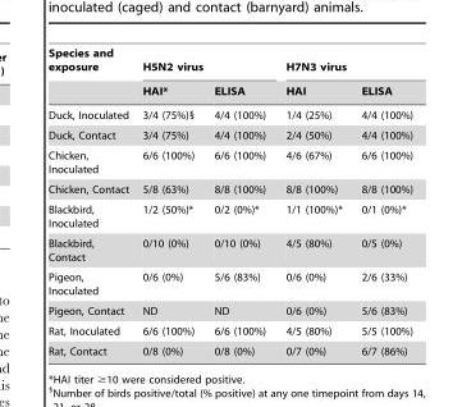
<table><thead><tr><td rowspan="2">Species and exposure</td><td colspan="2">H5N2 virus</td><td colspan="2">H7N3 virus</td></tr><tr><td>HAI*</td><td>ELISA</td><td>HAI</td><td>ELISA</td></tr></thead><tbody><tr><td>Duck, Inoculated</td><td>3/4 (75%)§</td><td>4/4 (100%)</td><td>1/4 (25%)</td><td>4/4 (100%)</td></tr><tr><td>Duck, Contact</td><td>3/4 (75%)</td><td>4/4 (100%)</td><td>2/4 (50%)</td><td>4/4 (100%)</td></tr><tr><td>Chicken, Inoculated</td><td>6/6 (100%)</td><td>6/6 (100%)</td><td>4/6 (67%)</td><td>6/6 (100%)</td></tr><tr><td>Chicken, Contact</td><td>5/8 (63%)</td><td>8/8 (100%)</td><td>8/8 (100%)</td><td>8/8 (100%)</td></tr><tr><td>Blackbird, Inoculated</td><td>1/2 (50%)*</td><td>0/2 (0%)*</td><td>1/1 (100%)*</td><td>0/1 (0%)*</td></tr><tr><td>Blackbird, Contact</td><td>0/10 (0%)</td><td>0/10 (0%)</td><td>4/5 (80%)</td><td>0/5 (0%)</td></tr><tr><td>Pigeon, Inoculated</td><td>0/6 (0%)</td><td>5/6 (83%)</td><td>0/6 (0%)</td><td>2/6 (33%)</td></tr><tr><td>Pigeon, Contact</td><td>ND</td><td>ND</td><td>0/6 (0%)</td><td>5/6 (83%)</td></tr><tr><td>Rat, Inoculated</td><td>6/6 (100%)</td><td>6/6 (100%)</td><td>4/5 (80%)</td><td>5/5 (100%)</td></tr><tr><td>Rat, Contact</td><td>0/8 (0%)</td><td>0/8 (0%)</td><td>0/7 (0%)</td><td>6/7 (86%)</td></tr></tbody></table>